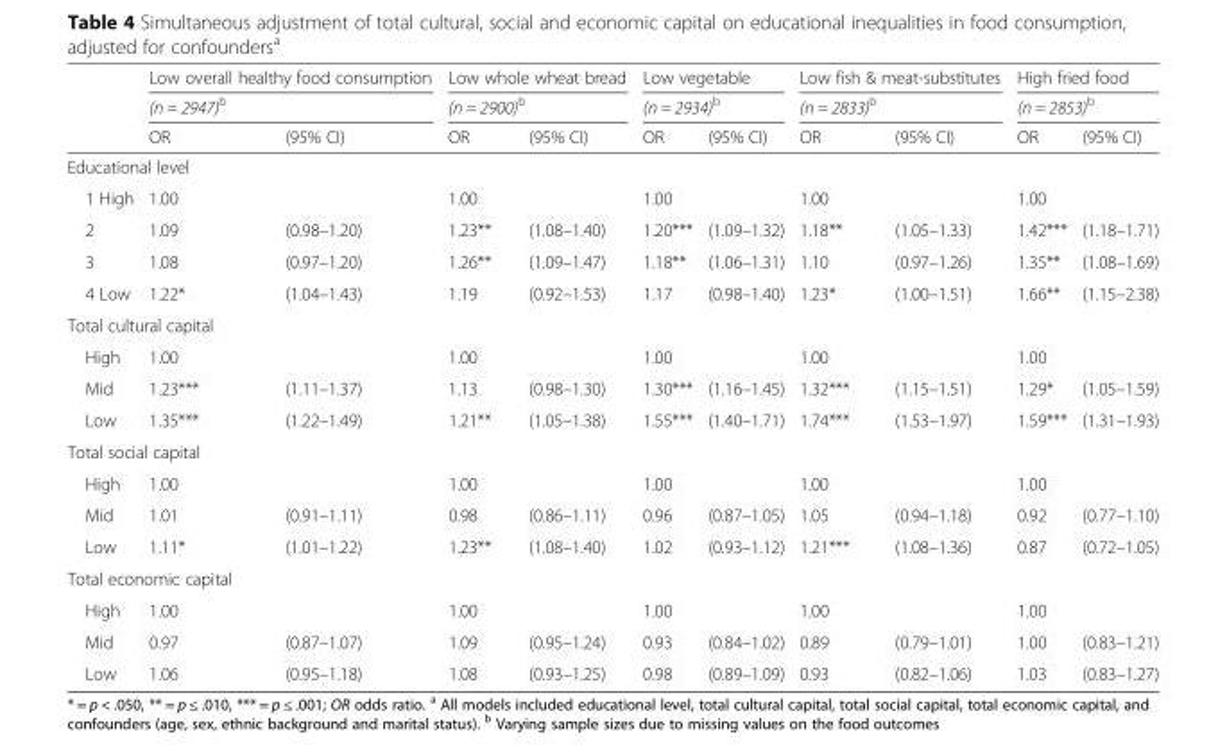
<table><thead><tr><td rowspan="3"></td><td rowspan="2" colspan="2">Low overall healthy food consumption (n = 2947)<sup>b</sup></td><td rowspan="2" colspan="2">Low whole wheat bread (n = 2900)<sup>b</sup></td><td rowspan="2" colspan="2">Low vegetable (n = 2934)<sup>b</sup></td><td rowspan="2" colspan="2">Low fish &amp; meat-substitutes (n = 2833)<sup>b</sup></td><td rowspan="2" colspan="2">High fried food (n = 2853)<sup>b</sup></td></tr><tr></tr><tr><td>OR</td><td>(95% CI)</td><td>OR</td><td>(95% CI)</td><td>OR</td><td>(95% CI)</td><td>OR</td><td>(95% CI)</td><td>OR</td><td>(95% CI)</td></tr></thead><tbody><tr><td colspan="11">Educational level</td></tr><tr><td>1 High</td><td>1.00</td><td></td><td>1.00</td><td></td><td>1.00</td><td></td><td>1.00</td><td></td><td>1.00</td><td></td></tr><tr><td>2</td><td>1.09</td><td>(0.98–1.20)</td><td>1.23**</td><td>(1.08–1.40)</td><td>1.20***</td><td>(1.09–1.32)</td><td>1.18**</td><td>(1.05–1.33)</td><td>1.42***</td><td>(1.18–1.71)</td></tr><tr><td>3</td><td>1.08</td><td>(0.97–1.20)</td><td>1.26**</td><td>(1.09–1.47)</td><td>1.18**</td><td>(1.06–1.31)</td><td>1.10</td><td>(0.97–1.26)</td><td>1.35**</td><td>(1.08–1.69)</td></tr><tr><td>4 Low</td><td>1.22*</td><td>(1.04–1.43)</td><td>1.19</td><td>(0.92–1.53)</td><td>1.17</td><td>(0.98–1.40)</td><td>1.23*</td><td>(1.00–1.51)</td><td>1.66**</td><td>(1.15–2.38)</td></tr><tr><td colspan="11">Total cultural capital</td></tr><tr><td>High</td><td>1.00</td><td></td><td>1.00</td><td></td><td>1.00</td><td></td><td>1.00</td><td></td><td>1.00</td><td></td></tr><tr><td>Mid</td><td>1.23***</td><td>(1.11–1.37)</td><td>1.13</td><td>(0.98–1.30)</td><td>1.30***</td><td>(1.16–1.45)</td><td>1.32***</td><td>(1.15–1.51)</td><td>1.29*</td><td>(1.05–1.59)</td></tr><tr><td>Low</td><td>1.35***</td><td>(1.22–1.49)</td><td>1.21**</td><td>(1.05–1.38)</td><td>1.55***</td><td>(1.40–1.71)</td><td>1.74***</td><td>(1.53–1.97)</td><td>1.59***</td><td>(1.31–1.93)</td></tr><tr><td colspan="11">Total social capital</td></tr><tr><td>High</td><td>1.00</td><td></td><td>1.00</td><td></td><td>1.00</td><td></td><td>1.00</td><td></td><td>1.00</td><td></td></tr><tr><td>Mid</td><td>1.01</td><td>(0.91–1.11)</td><td>0.98</td><td>(0.86–1.11)</td><td>0.96</td><td>(0.87–1.05)</td><td>1.05</td><td>(0.94–1.18)</td><td>0.92</td><td>(0.77–1.10)</td></tr><tr><td>Low</td><td>1.11*</td><td>(1.01–1.22)</td><td>1.23**</td><td>(1.08–1.40)</td><td>1.02</td><td>(0.93–1.12)</td><td>1.21***</td><td>(1.08–1.36)</td><td>0.87</td><td>(0.72–1.05)</td></tr><tr><td colspan="11">Total economic capital</td></tr><tr><td>High</td><td>1.00</td><td></td><td>1.00</td><td></td><td>1.00</td><td></td><td>1.00</td><td></td><td>1.00</td><td></td></tr><tr><td>Mid</td><td>0.97</td><td>(0.87–1.07)</td><td>1.09</td><td>(0.95–1.24)</td><td>0.93</td><td>(0.84–1.02)</td><td>0.89</td><td>(0.79–1.01)</td><td>1.00</td><td>(0.83–1.21)</td></tr><tr><td>Low</td><td>1.06</td><td>(0.95–1.18)</td><td>1.08</td><td>(0.93–1.25)</td><td>0.98</td><td>(0.89–1.09)</td><td>0.93</td><td>(0.82–1.06)</td><td>1.03</td><td>(0.83–1.27)</td></tr></tbody></table>